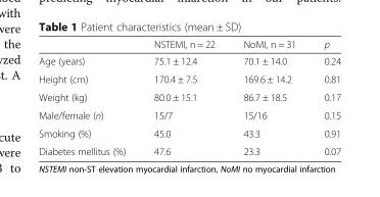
<table><thead><tr><td></td><td>NSTEMI, n = 22</td><td>NoMI, n = 31</td><td>p</td></tr></thead><tbody><tr><td>Age (years)</td><td>75.1 ± 12.4</td><td>70.1 ± 14.0</td><td>0.24</td></tr><tr><td>Height (cm)</td><td>170.4 ± 7.5</td><td>169.6 ± 14.2</td><td>0.81</td></tr><tr><td>Weight (kg)</td><td>80.0 ± 15.1</td><td>86.7 ± 18.5</td><td>0.17</td></tr><tr><td>Male/female (n)</td><td>15/7</td><td>15/16</td><td>0.15</td></tr><tr><td>Smoking (%)</td><td>45.0</td><td>43.3</td><td>0.91</td></tr><tr><td>Diabetes mellitus (%)</td><td>47.6</td><td>23.3</td><td>0.07</td></tr></tbody></table>